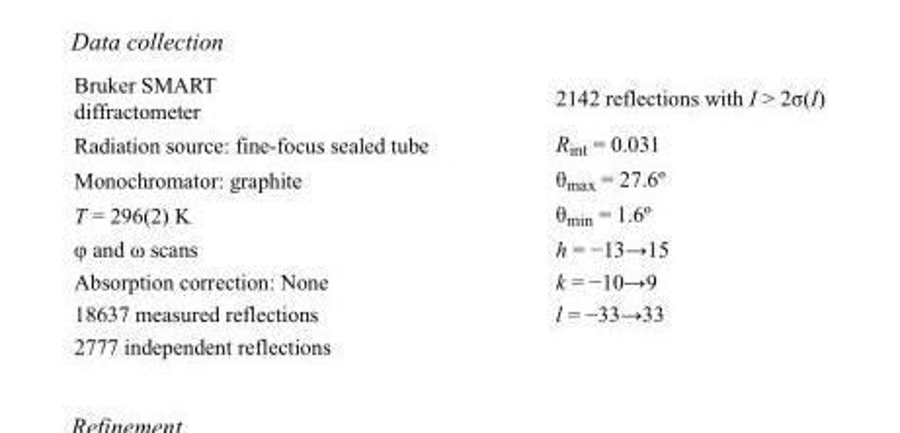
<table><tbody><tr><td>Bruker SMART diffractometer</td><td>2142 reflections with I &gt; 2σ(I)</td></tr><tr><td>Radiation source: fine-focus sealed tube</td><td>R<sub>int</sub> = 0.031</td></tr><tr><td>Monochromator: graphite</td><td>θ<sub>max</sub> = 27.6º</td></tr><tr><td>T = 296(2) K</td><td>θ<sub>min</sub> = 1.6º</td></tr><tr><td>φ and ω scans</td><td>h = −13→15</td></tr><tr><td>Absorption correction: None</td><td>k = −10→9</td></tr><tr><td>18637 measured reflections</td><td>l = −33→33</td></tr><tr><td>2777 independent reflections</td><td></td></tr></tbody></table>